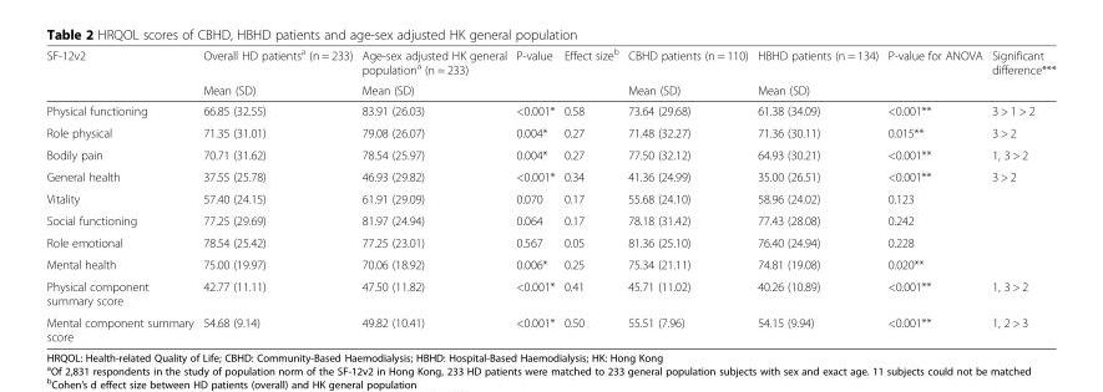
<table><thead><tr><td rowspan="2">SF-12v2</td><td rowspan="2">Overall HD patients<sup>a</sup> (n = 233) Mean (SD)</td><td rowspan="2">Age-sex adjusted HK general population<sup>a</sup> (n = 233) Mean (SD)</td><td rowspan="2">P-value</td><td rowspan="2">Effect size<sup>b</sup></td><td rowspan="2">CBHD patients (n = 110) Mean (SD)</td><td rowspan="2">HBHD patients (n = 134) Mean (SD)</td><td rowspan="2">P-value for ANOVA</td><td rowspan="2">Significant difference***</td></tr><tr></tr></thead><tbody><tr><td>Physical functioning</td><td>66.85 (32.55)</td><td>83.91 (26.03)</td><td>&lt;0.001*</td><td>0.58</td><td>73.64 (29.68)</td><td>61.38 (34.09)</td><td>&lt;0.001**</td><td>3 &gt; 1 &gt; 2</td></tr><tr><td>Role physical</td><td>71.35 (31.01)</td><td>79.08 (26.07)</td><td>0.004*</td><td>0.27</td><td>71.48 (32.27)</td><td>71.36 (30.11)</td><td>0.015**</td><td>3 &gt; 2</td></tr><tr><td>Bodily pain</td><td>70.71 (31.62)</td><td>78.54 (25.97)</td><td>0.004*</td><td>0.27</td><td>77.50 (32.12)</td><td>64.93 (30.21)</td><td>&lt;0.001**</td><td>1, 3 &gt; 2</td></tr><tr><td>General health</td><td>37.55 (25.78)</td><td>46.93 (29.82)</td><td>&lt;0.001*</td><td>0.34</td><td>41.36 (24.99)</td><td>35.00 (26.51)</td><td>&lt;0.001**</td><td>3 &gt; 2</td></tr><tr><td>Vitality</td><td>57.40 (24.15)</td><td>61.91 (29.09)</td><td>0.070</td><td>0.17</td><td>55.68 (24.10)</td><td>58.96 (24.02)</td><td>0.123</td><td></td></tr><tr><td>Social functioning</td><td>77.25 (29.69)</td><td>81.97 (24.94)</td><td>0.064</td><td>0.17</td><td>78.18 (31.42)</td><td>77.43 (28.08)</td><td>0.242</td><td></td></tr><tr><td>Role emotional</td><td>78.54 (25.42)</td><td>77.25 (23.01)</td><td>0.567</td><td>0.05</td><td>81.36 (25.10)</td><td>76.40 (24.94)</td><td>0.228</td><td></td></tr><tr><td>Mental health</td><td>75.00 (19.97)</td><td>70.06 (18.92)</td><td>0.006*</td><td>0.25</td><td>75.34 (21.11)</td><td>74.81 (19.08)</td><td>0.020**</td><td></td></tr><tr><td>Physical component summary score</td><td>42.77 (11.11)</td><td>47.50 (11.82)</td><td>&lt;0.001*</td><td>0.41</td><td>45.71 (11.02)</td><td>40.26 (10.89)</td><td>&lt;0.001**</td><td>1, 3 &gt; 2</td></tr><tr><td>Mental component summary score</td><td>54.68 (9.14)</td><td>49.82 (10.41)</td><td>&lt;0.001*</td><td>0.50</td><td>55.51 (7.96)</td><td>54.15 (9.94)</td><td>&lt;0.001**</td><td>1, 2 &gt; 3</td></tr></tbody></table>